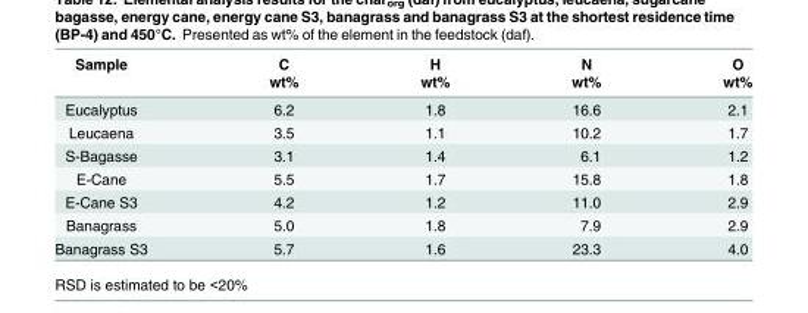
<table><thead><tr><td rowspan="2">Sample</td><td rowspan="2">C wt%</td><td rowspan="2">H wt%</td><td rowspan="2">N wt%</td><td rowspan="2">O wt%</td></tr><tr></tr></thead><tbody><tr><td>Eucalyptus</td><td>6.2</td><td>1.8</td><td>16.6</td><td>2.1</td></tr><tr><td>Leucaena</td><td>3.5</td><td>1.1</td><td>10.2</td><td>1.7</td></tr><tr><td>S-Bagasse</td><td>3.1</td><td>1.4</td><td>6.1</td><td>1.2</td></tr><tr><td>E-Cane</td><td>5.5</td><td>1.7</td><td>15.8</td><td>1.8</td></tr><tr><td>E-Cane S3</td><td>4.2</td><td>1.2</td><td>11.0</td><td>2.9</td></tr><tr><td>Banagrass</td><td>5.0</td><td>1.8</td><td>7.9</td><td>2.9</td></tr><tr><td>Banagrass S3</td><td>5.7</td><td>1.6</td><td>23.3</td><td>4.0</td></tr></tbody></table>